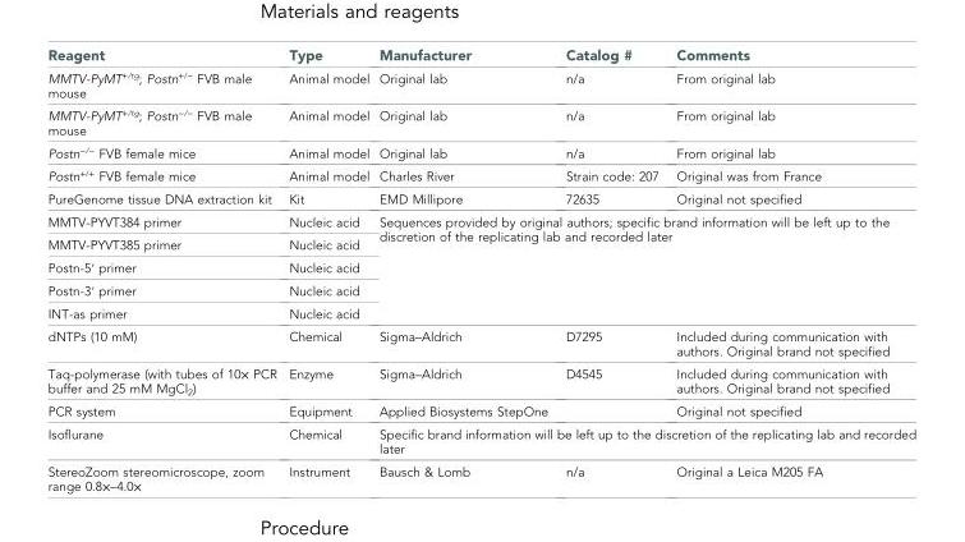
<table><thead><tr><td>Reagent</td><td>Type</td><td>Manufacturer</td><td>Catalog #</td><td>Comments</td></tr></thead><tbody><tr><td>MMTV-PyMT<sup>+/tg</sup>; Postn<sup>+/−</sup> FVB male mouse</td><td>Animal model</td><td>Original lab</td><td>n/a</td><td>From original lab</td></tr><tr><td>MMTV-PyMT<sup>+/tg</sup>; Postn<sup>−/−</sup> FVB male mouse</td><td>Animal model</td><td>Original lab</td><td>n/a</td><td>From original lab</td></tr><tr><td>Postn<sup>−/−</sup> FVB female mice</td><td>Animal model</td><td>Original lab</td><td>n/a</td><td>From original lab</td></tr><tr><td>Postn<sup>+/+</sup> FVB female mice</td><td>Animal model</td><td>Charles River</td><td>Strain code: 207</td><td>Original was from France</td></tr><tr><td>PureGenome tissue DNA extraction kit</td><td>Kit</td><td>EMD Millipore</td><td>72635</td><td>Original not specified</td></tr><tr><td>MMTV-PYVT384 primer</td><td>Nucleic acid</td><td rowspan="5" colspan="3">Sequences provided by original authors; specific brand information will be left up to the discretion of the replicating lab and recorded later</td></tr><tr><td>MMTV-PYVT385 primer</td><td>Nucleic acid</td></tr><tr><td>Postn-5′ primer</td><td>Nucleic acid</td></tr><tr><td>Postn-3′ primer</td><td>Nucleic acid</td></tr><tr><td>INT-as primer</td><td>Nucleic acid</td></tr><tr><td>dNTPs (10 mM)</td><td>Chemical</td><td>Sigma–Aldrich</td><td>D7295</td><td>Included during communication with authors. Original brand not specified</td></tr><tr><td>Taq-polymerase (with tubes of 10× PCR buffer and 25 mM MgCl<sub>2</sub>)</td><td>Enzyme</td><td>Sigma–Aldrich</td><td>D4545</td><td>Included during communication with authors. Original brand not specified</td></tr><tr><td>PCR system</td><td>Equipment</td><td>Applied Biosystems StepOne</td><td></td><td>Original not specified</td></tr><tr><td>Isoflurane</td><td>Chemical</td><td colspan="3">Specific brand information will be left up to the discretion of the replicating lab and recorded later</td></tr><tr><td>StereoZoom stereomicroscope, zoom range 0.8×–4.0×</td><td>Instrument</td><td>Bausch &amp; Lomb</td><td>n/a</td><td>Original a Leica M205 FA</td></tr></tbody></table>